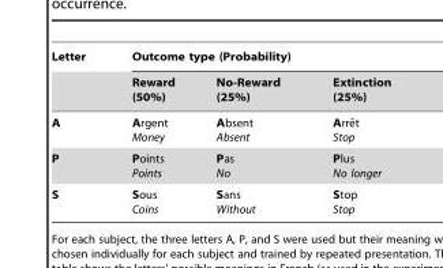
<table><thead><tr><td rowspan="2">Letter</td><td colspan="3">Outcome type (Probability)</td></tr><tr><td>Reward (50%)</td><td>No-Reward (25%)</td><td>Extinction (25%)</td></tr></thead><tbody><tr><td>A</td><td>Argent Money</td><td>Absent Absent</td><td>Arreˆt Stop</td></tr><tr><td>P</td><td>Points Points</td><td>Pas No</td><td>Plus No longer</td></tr><tr><td>S</td><td>Sous Coins</td><td>Sans Without</td><td>Stop Stop</td></tr></tbody></table>